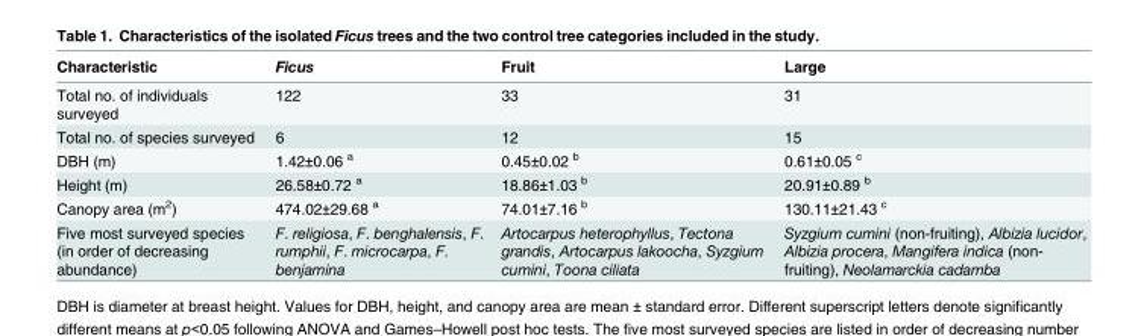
<table><thead><tr><td>Characteristic</td><td>Ficus</td><td>Fruit</td><td>Large</td></tr></thead><tbody><tr><td>Total no. of individuals surveyed</td><td>122</td><td>33</td><td>31</td></tr><tr><td>Total no. of species surveyed</td><td>6</td><td>12</td><td>15</td></tr><tr><td>DBH (m)</td><td>1.42±0.06 <sup>a</sup></td><td>0.45±0.02 <sup>b</sup></td><td>0.61±0.05 <sup>c</sup></td></tr><tr><td>Height (m)</td><td>26.58±0.72 <sup>a</sup></td><td>18.86±1.03 <sup>b</sup></td><td>20.91±0.89 <sup>b</sup></td></tr><tr><td>Canopy area (m<sup>2</sup>)</td><td>474.02±29.68 <sup>a</sup></td><td>74.01±7.16 <sup>b</sup></td><td>130.11±21.43 <sup>c</sup></td></tr><tr><td>Five most surveyed species (in order of decreasing abundance)</td><td>F. religiosa, F. benghalensis, F. rumphii, F. microcarpa, F. benjamina</td><td>Artocarpus heterophyllus, Tectona grandis, Artocarpus lakoocha, Syzgium cumini, Toona ciliata</td><td>Syzgium cumini (non-fruiting), Albizia lucidor, Albizia procera, Mangifera indica (non- fruiting), Neolamarckia cadamba</td></tr></tbody></table>